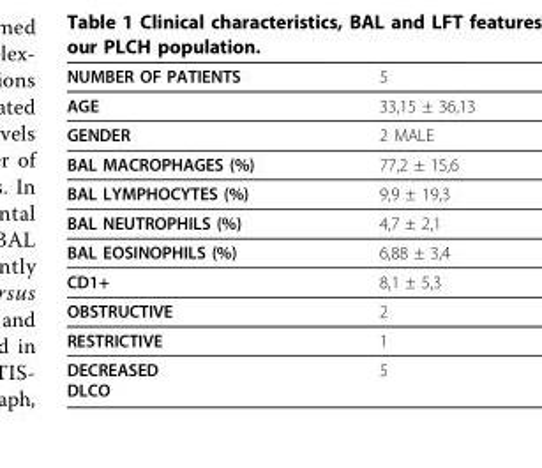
<table><thead><tr><td>NUMBER OF PATIENTS</td><td>5</td></tr></thead><tbody><tr><td>AGE</td><td>33,15 ± 36,13</td></tr><tr><td>GENDER</td><td>2 MALE</td></tr><tr><td>BAL MACROPHAGES (%)</td><td>77,2 ± 15,6</td></tr><tr><td>BAL LYMPHOCYTES (%)</td><td>9,9 ± 19,3</td></tr><tr><td>BAL NEUTROPHILS (%)</td><td>4,7 ± 2,1</td></tr><tr><td>BAL EOSINOPHILS (%)</td><td>6,88 ± 3,4</td></tr><tr><td>CD1+</td><td>8,1 ± 5,3</td></tr><tr><td>OBSTRUCTIVE</td><td>2</td></tr><tr><td>RESTRICTIVE</td><td>1</td></tr><tr><td>DECREASED DLCO</td><td>5</td></tr></tbody></table>